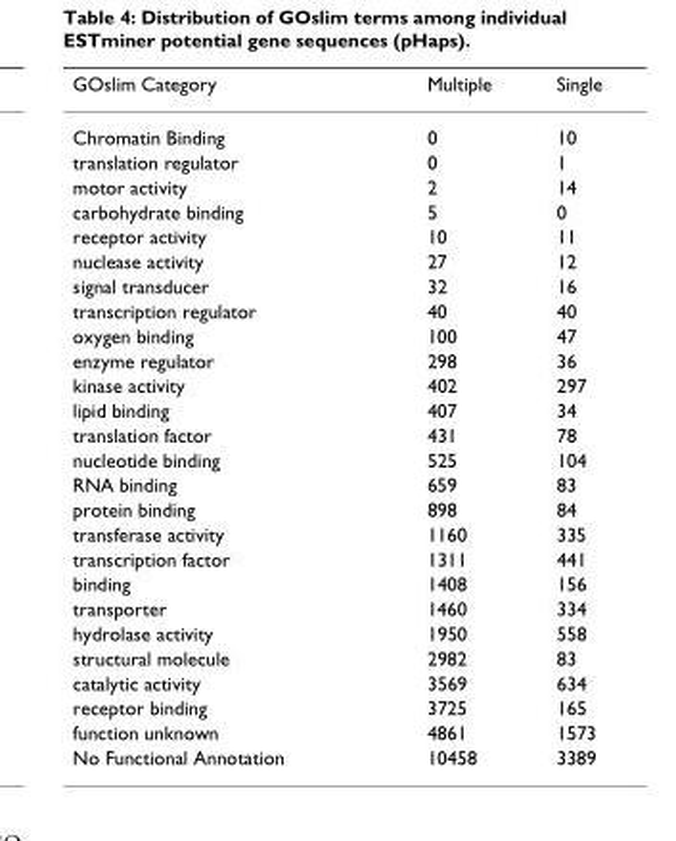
<table><thead><tr><td>GOslim Category</td><td>Multiple</td><td>Single</td></tr></thead><tbody><tr><td>Chromatin Binding</td><td>0</td><td>10</td></tr><tr><td>translation regulator</td><td>0</td><td>1</td></tr><tr><td>motor activity</td><td>2</td><td>14</td></tr><tr><td>carbohydrate binding</td><td>5</td><td>0</td></tr><tr><td>receptor activity</td><td>10</td><td>11</td></tr><tr><td>nuclease activity</td><td>27</td><td>12</td></tr><tr><td>signal transducer</td><td>32</td><td>16</td></tr><tr><td>transcription regulator</td><td>40</td><td>40</td></tr><tr><td>oxygen binding</td><td>100</td><td>47</td></tr><tr><td>enzyme regulator</td><td>298</td><td>36</td></tr><tr><td>kinase activity</td><td>402</td><td>297</td></tr><tr><td>lipid binding</td><td>407</td><td>34</td></tr><tr><td>translation factor</td><td>431</td><td>78</td></tr><tr><td>nucleotide binding</td><td>525</td><td>104</td></tr><tr><td>RNA binding</td><td>659</td><td>83</td></tr><tr><td>protein binding</td><td>898</td><td>84</td></tr><tr><td>transferase activity</td><td>1160</td><td>335</td></tr><tr><td>transcription factor</td><td>1311</td><td>441</td></tr><tr><td>binding</td><td>1408</td><td>156</td></tr><tr><td>transporter</td><td>1460</td><td>334</td></tr><tr><td>hydrolase activity</td><td>1950</td><td>558</td></tr><tr><td>structural molecule</td><td>2982</td><td>83</td></tr><tr><td>catalytic activity</td><td>3569</td><td>634</td></tr><tr><td>receptor binding</td><td>3725</td><td>165</td></tr><tr><td>function unknown</td><td>4861</td><td>1573</td></tr><tr><td>No Functional Annotation</td><td>10458</td><td>3389</td></tr></tbody></table>